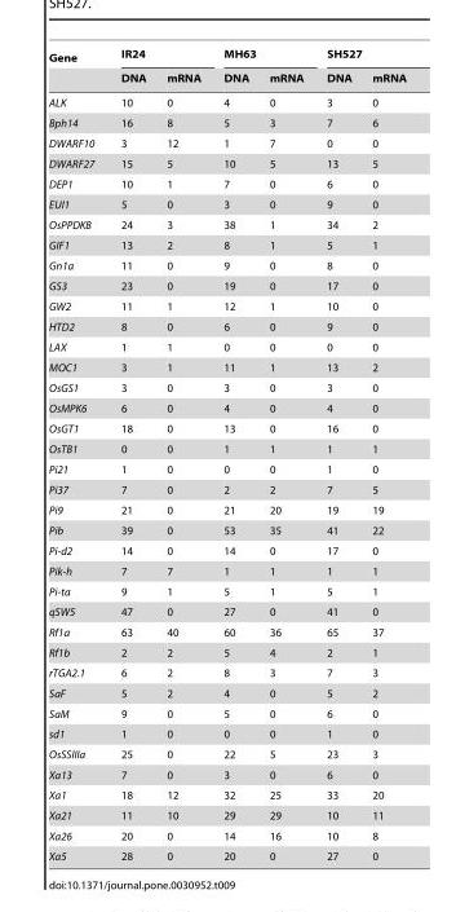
<table><thead><tr><td rowspan="2">Gene</td><td colspan="2">IR24</td><td colspan="2">MH63</td><td colspan="2">SH527</td></tr><tr><td>DNA</td><td>mRNA</td><td>DNA</td><td>mRNA</td><td>DNA</td><td>mRNA</td></tr></thead><tbody><tr><td>ALK</td><td>10</td><td>0</td><td>4</td><td>0</td><td>3</td><td>0</td></tr><tr><td>Bph14</td><td>16</td><td>8</td><td>5</td><td>3</td><td>7</td><td>6</td></tr><tr><td>DWARF10</td><td>3</td><td>12</td><td>1</td><td>7</td><td>0</td><td>0</td></tr><tr><td>DWARF27</td><td>15</td><td>5</td><td>10</td><td>5</td><td>13</td><td>5</td></tr><tr><td>DEP1</td><td>10</td><td>1</td><td>7</td><td>0</td><td>6</td><td>0</td></tr><tr><td>EUI1</td><td>5</td><td>0</td><td>3</td><td>0</td><td>9</td><td>0</td></tr><tr><td>OsPPDKB</td><td>24</td><td>3</td><td>38</td><td>1</td><td>34</td><td>2</td></tr><tr><td>GIF1</td><td>13</td><td>2</td><td>8</td><td>1</td><td>5</td><td>1</td></tr><tr><td>Gn1a</td><td>11</td><td>0</td><td>9</td><td>0</td><td>8</td><td>0</td></tr><tr><td>GS3</td><td>23</td><td>0</td><td>19</td><td>0</td><td>17</td><td>0</td></tr><tr><td>GW2</td><td>11</td><td>1</td><td>12</td><td>1</td><td>10</td><td>0</td></tr><tr><td>HTD2</td><td>8</td><td>0</td><td>6</td><td>0</td><td>9</td><td>0</td></tr><tr><td>LAX</td><td>1</td><td>1</td><td>0</td><td>0</td><td>0</td><td>0</td></tr><tr><td>MOC1</td><td>3</td><td>1</td><td>11</td><td>1</td><td>13</td><td>2</td></tr><tr><td>OsGS1</td><td>3</td><td>0</td><td>3</td><td>0</td><td>3</td><td>0</td></tr><tr><td>OsMPK6</td><td>6</td><td>0</td><td>4</td><td>0</td><td>4</td><td>0</td></tr><tr><td>OsGT1</td><td>18</td><td>0</td><td>13</td><td>0</td><td>16</td><td>0</td></tr><tr><td>OsTB1</td><td>0</td><td>0</td><td>1</td><td>1</td><td>1</td><td>1</td></tr><tr><td>Pi21</td><td>1</td><td>0</td><td>0</td><td>0</td><td>1</td><td>0</td></tr><tr><td>Pi37</td><td>7</td><td>0</td><td>2</td><td>2</td><td>7</td><td>5</td></tr><tr><td>Pi9</td><td>21</td><td>0</td><td>21</td><td>20</td><td>19</td><td>19</td></tr><tr><td>Pib</td><td>39</td><td>0</td><td>53</td><td>35</td><td>41</td><td>22</td></tr><tr><td>Pi-d2</td><td>14</td><td>0</td><td>14</td><td>0</td><td>17</td><td>0</td></tr><tr><td>Pik-h</td><td>7</td><td>7</td><td>1</td><td>1</td><td>1</td><td>1</td></tr><tr><td>Pi-ta</td><td>9</td><td>1</td><td>5</td><td>1</td><td>5</td><td>1</td></tr><tr><td>qSW5</td><td>47</td><td>0</td><td>27</td><td>0</td><td>41</td><td>0</td></tr><tr><td>Rf1a</td><td>63</td><td>40</td><td>60</td><td>36</td><td>65</td><td>37</td></tr><tr><td>Rf1b</td><td>2</td><td>2</td><td>5</td><td>4</td><td>2</td><td>1</td></tr><tr><td>rTGA2.1</td><td>6</td><td>2</td><td>8</td><td>3</td><td>7</td><td>3</td></tr><tr><td>SaF</td><td>5</td><td>2</td><td>4</td><td>0</td><td>5</td><td>2</td></tr><tr><td>SaM</td><td>9</td><td>0</td><td>5</td><td>0</td><td>6</td><td>0</td></tr><tr><td>sd1</td><td>1</td><td>0</td><td>0</td><td>0</td><td>1</td><td>0</td></tr><tr><td>OsSSIIIa</td><td>25</td><td>0</td><td>22</td><td>5</td><td>23</td><td>3</td></tr><tr><td>Xa13</td><td>7</td><td>0</td><td>3</td><td>0</td><td>6</td><td>0</td></tr><tr><td>Xa1</td><td>18</td><td>12</td><td>32</td><td>25</td><td>33</td><td>20</td></tr><tr><td>Xa21</td><td>11</td><td>10</td><td>29</td><td>29</td><td>10</td><td>11</td></tr><tr><td>Xa26</td><td>20</td><td>0</td><td>14</td><td>16</td><td>10</td><td>8</td></tr><tr><td>Xa5</td><td>28</td><td>0</td><td>20</td><td>0</td><td>27</td><td>0</td></tr></tbody></table>